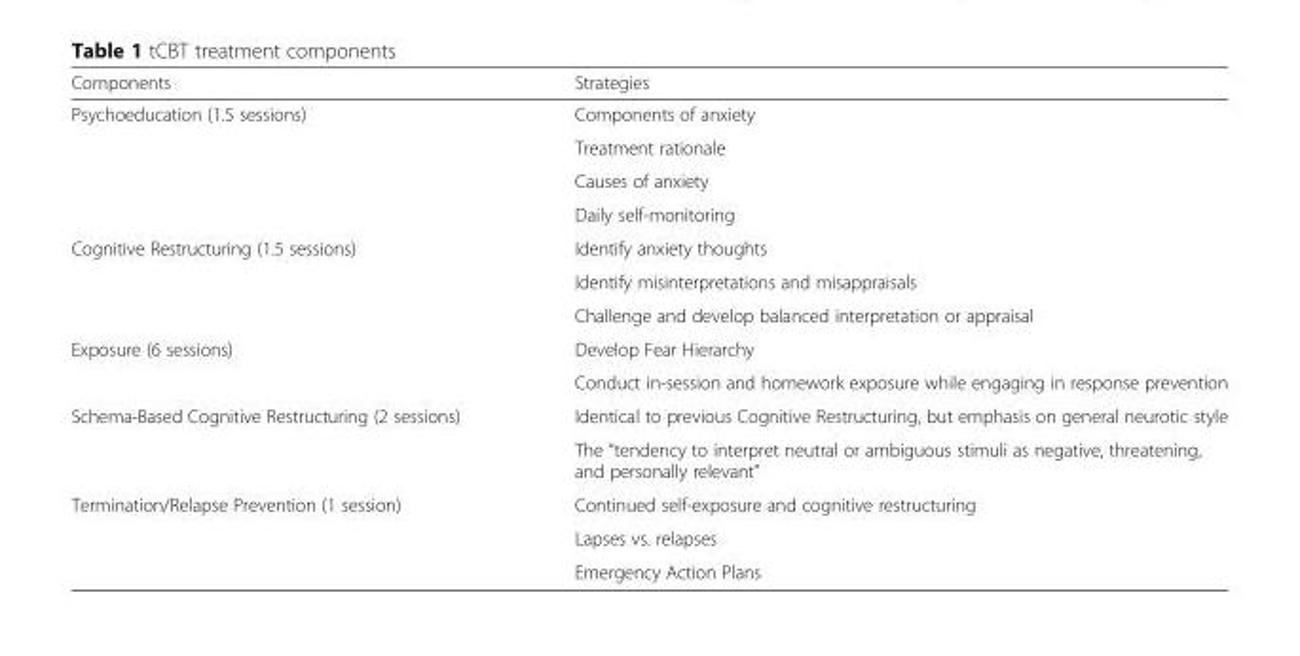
<table><thead><tr><td>Components</td><td>Strategies</td></tr></thead><tbody><tr><td rowspan="4">Psychoeducation (1.5 sessions)</td><td>Components of anxiety</td></tr><tr><td>Treatment rationale</td></tr><tr><td>Causes of anxiety</td></tr><tr><td>Daily self-monitoring</td></tr><tr><td rowspan="3">Cognitive Restructuring (1.5 sessions)</td><td>Identify anxiety thoughts</td></tr><tr><td>Identify misinterpretations and misappraisals</td></tr><tr><td>Challenge and develop balanced interpretation or appraisal</td></tr><tr><td rowspan="2">Exposure (6 sessions)</td><td>Develop Fear Hierarchy</td></tr><tr><td>Conduct in-session and homework exposure while engaging in response prevention</td></tr><tr><td rowspan="2">Schema-Based Cognitive Restructuring (2 sessions)</td><td>Identical to previous Cognitive Restructuring, but emphasis on general neurotic style</td></tr><tr><td>The “tendency to interpret neutral or ambiguous stimuli as negative, threatening, and personally relevant”</td></tr><tr><td rowspan="3">Termination/Relapse Prevention (1 session)</td><td>Continued self-exposure and cognitive restructuring</td></tr><tr><td>Lapses vs. relapses</td></tr><tr><td>Emergency Action Plans</td></tr></tbody></table>